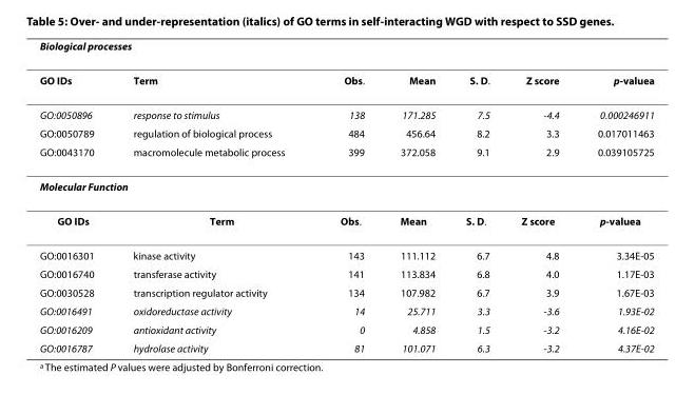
<table><thead><tr><td colspan="2">Biological processes</td><td rowspan="2">Obs.</td><td rowspan="2">Mean</td><td rowspan="2">S. D.</td><td rowspan="2">Z score</td><td rowspan="2">p-value<sup>a</sup></td></tr><tr><td>GO IDs</td><td>Term</td></tr></thead><tbody><tr><td>GO:0050896</td><td>response to stimulus</td><td>138</td><td>171.285</td><td>7.5</td><td>-4.4</td><td>0.000246911</td></tr><tr><td>GO:0050789</td><td>regulation of biological process</td><td>484</td><td>456.64</td><td>8.2</td><td>3.3</td><td>0.017011463</td></tr><tr><td>GO:0043170</td><td>macromolecule metabolic process</td><td>399</td><td>372.058</td><td>9.1</td><td>2.9</td><td>0.039105725</td></tr><tr><td colspan="7">Molecular Function</td></tr><tr><td>GO IDs</td><td>Term</td><td>Obs.</td><td>Mean</td><td>S. D.</td><td>Z score</td><td>p-value<sup>a</sup></td></tr><tr><td>GO:0016301</td><td>kinase activity</td><td>143</td><td>111.112</td><td>6.7</td><td>4.8</td><td>3.34E-05</td></tr><tr><td>GO:0016740</td><td>transferase activity</td><td>141</td><td>113.834</td><td>6.8</td><td>4.0</td><td>1.17E-03</td></tr><tr><td>GO:0030528</td><td>transcription regulator activity</td><td>134</td><td>107.982</td><td>6.7</td><td>3.9</td><td>1.67E-03</td></tr><tr><td>GO:0016491</td><td>oxidoreductase activity</td><td>14</td><td>25.711</td><td>3.3</td><td>-3.6</td><td>1.93E-02</td></tr><tr><td>GO:0016209</td><td>antioxidant activity</td><td>0</td><td>4.858</td><td>1.5</td><td>-3.2</td><td>4.16E-02</td></tr><tr><td>GO:0016787</td><td>hydrolase activity</td><td>81</td><td>101.071</td><td>6.3</td><td>-3.2</td><td>4.37E-02</td></tr></tbody></table>